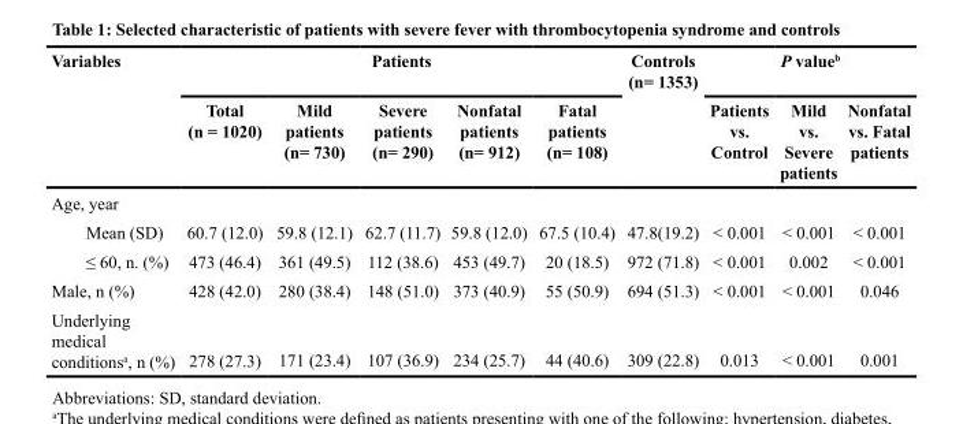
<table><thead><tr><td rowspan="2">Variables</td><td colspan="5">Patients</td><td rowspan="2">Controls (n= 1353)</td><td colspan="3">P value<sup>b</sup></td></tr><tr><td>Total (n = 1020)</td><td>Mild patients (n= 730)</td><td>Severe patients (n= 290)</td><td>Nonfatal patients (n= 912)</td><td>Fatal patients (n= 108)</td><td>Patients vs. Control</td><td>Mild vs. Severe patients</td><td>Nonfatal vs. Fatal patients</td></tr></thead><tbody><tr><td colspan="10">Age, year</td></tr><tr><td>Mean (SD)</td><td>60.7 (12.0)</td><td>59.8 (12.1)</td><td>62.7 (11.7)</td><td>59.8 (12.0)</td><td>67.5 (10.4)</td><td>47.8(19.2)</td><td>&lt; 0.001</td><td>&lt; 0.001</td><td>&lt; 0.001</td></tr><tr><td>≤ 60, n. (%)</td><td>473 (46.4)</td><td>361 (49.5)</td><td>112 (38.6)</td><td>453 (49.7)</td><td>20 (18.5)</td><td>972 (71.8)</td><td>&lt; 0.001</td><td>0.002</td><td>&lt; 0.001</td></tr><tr><td>Male, n (%)</td><td>428 (42.0)</td><td>280 (38.4)</td><td>148 (51.0)</td><td>373 (40.9)</td><td>55 (50.9)</td><td>694 (51.3)</td><td>&lt; 0.001</td><td>&lt; 0.001</td><td>0.046</td></tr><tr><td>Underlying medical conditions<sup>a</sup>, n (%)</td><td>278 (27.3)</td><td>171 (23.4)</td><td>107 (36.9)</td><td>234 (25.7)</td><td>44 (40.6)</td><td>309 (22.8)</td><td>0.013</td><td>&lt; 0.001</td><td>0.001</td></tr></tbody></table>